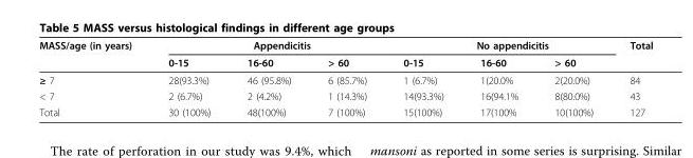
<table><thead><tr><td rowspan="2">MASS/age (in years)</td><td colspan="3">Appendicitis</td><td colspan="3">No appendicitis</td><td rowspan="2">Total</td></tr><tr><td>0-15</td><td>16-60</td><td>&gt; 60</td><td>0-15</td><td>16-60</td><td>&gt; 60</td></tr></thead><tbody><tr><td>≥ 7</td><td>28(93.3%)</td><td>46 (95.8%)</td><td>6 (85.7%)</td><td>1 (6.7%)</td><td>1(20.0%</td><td>2(20.0%)</td><td>84</td></tr><tr><td>&lt; 7</td><td>2 (6.7%)</td><td>2 (4.2%)</td><td>1 (14.3%)</td><td>14(93.3%)</td><td>16(94.1%</td><td>8(80.0%)</td><td>43</td></tr><tr><td>Total</td><td>30 (100%)</td><td>48(100%)</td><td>7 (100%)</td><td>15(100%)</td><td>17(100%</td><td>10(100%)</td><td>127</td></tr></tbody></table>